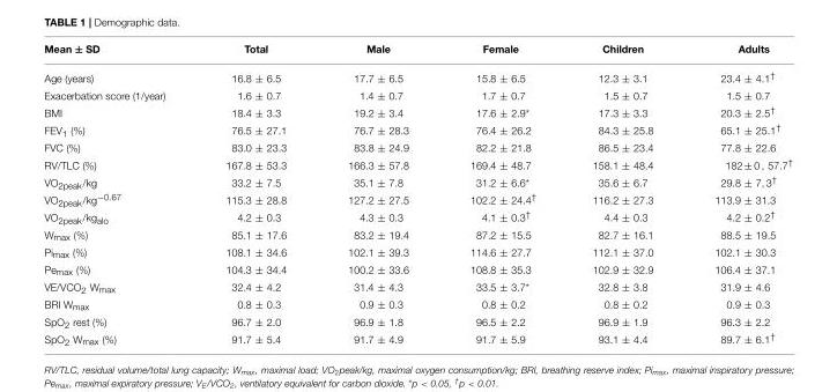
<table><thead><tr><td>Mean ± SD</td><td>Total</td><td>Male</td><td>Female</td><td>Children</td><td>Adults</td></tr></thead><tbody><tr><td>Age (years)</td><td>16.8 ± 6.5</td><td>17.7 ± 6.5</td><td>15.8 ± 6.5</td><td>12.3 ± 3.1</td><td>23.4 ± 4.1<sup>†</sup></td></tr><tr><td>Exacerbation score (1/year)</td><td>1.6 ± 0.7</td><td>1.4 ± 0.7</td><td>1.7 ± 0.7</td><td>1.5 ± 0.7</td><td>1.5 ± 0.7</td></tr><tr><td>BMI</td><td>18.4 ± 3.3</td><td>19.2 ± 3.4</td><td>17.6 ± 2.9*</td><td>17.3 ± 3.3</td><td>20.3 ± 2.5<sup>†</sup></td></tr><tr><td>FEV<sub>1</sub> (%)</td><td>76.5 ± 27.1</td><td>76.7 ± 28.3</td><td>76.4 ± 26.2</td><td>84.3 ± 25.8</td><td>65.1 ± 25.1<sup>†</sup></td></tr><tr><td>FVC (%)</td><td>83.0 ± 23.3</td><td>83.8 ± 24.9</td><td>82.2 ± 21.8</td><td>86.5 ± 23.4</td><td>77.8 ± 22.6</td></tr><tr><td>RV/TLC (%)</td><td>167.8 ± 53.3</td><td>166.3 ± 57.8</td><td>169.4 ± 48.7</td><td>158.1 ± 48.4</td><td>182 ± 0 , 57.7†</td></tr><tr><td>VO<sub>2peak</sub>/kg</td><td>33.2 ± 7.5</td><td>35.1 ± 7.8</td><td>31.2 ± 6.6*</td><td>35.6 ± 6.7</td><td>29.8 ± 7, 3<sup>†</sup></td></tr><tr><td>VO<sub>2peak</sub>/kg<sup>−0.67</sup></td><td>115.3 ± 28.8</td><td>127.2 ± 27.5</td><td>102.2 ± 24.4<sup>†</sup></td><td>116.2 ± 27.3</td><td>113.9 ± 31.3</td></tr><tr><td>VO<sub>2peak</sub>/kg<sub>alo</sub></td><td>4.2 ± 0.3</td><td>4.3 ± 0.3</td><td>4.1 ± 0.3<sup>†</sup></td><td>4.4 ± 0.3</td><td>4.2 ± 0.2<sup>†</sup></td></tr><tr><td>W<sub>max</sub> (%)</td><td>85.1 ± 17.6</td><td>83.2 ± 19.4</td><td>87.2 ± 15.5</td><td>82.7 ± 16.1</td><td>88.5 ± 19.5</td></tr><tr><td>Pi<sub>max</sub> (%)</td><td>108.1 ± 34.6</td><td>102.1 ± 39.3</td><td>114.6 ± 27.7</td><td>112.1 ± 37.0</td><td>102.1 ± 30.3</td></tr><tr><td>Pe<sub>max</sub> (%)</td><td>104.3 ± 34.4</td><td>100.2 ± 33.6</td><td>108.8 ± 35.3</td><td>102.9 ± 32.9</td><td>106.4 ± 37.1</td></tr><tr><td>VE/VCO<sub>2</sub> W<sub>max</sub></td><td>32.4 ± 4.2</td><td>31.4 ± 4.3</td><td>33.5 ± 3.7*</td><td>32.8 ± 3.8</td><td>31.9 ± 4.6</td></tr><tr><td>BRI W<sub>max</sub></td><td>0.8 ± 0.3</td><td>0.9 ± 0.3</td><td>0.8 ± 0.2</td><td>0.8 ± 0.2</td><td>0.9 ± 0.3</td></tr><tr><td>SpO<sub>2</sub> rest (%)</td><td>96.7 ± 2.0</td><td>96.9 ± 1.8</td><td>96.5 ± 2.2</td><td>96.9 ± 1.9</td><td>96.3 ± 2.2</td></tr><tr><td>SpO<sub>2</sub> W<sub>max</sub> (%)</td><td>91.7 ± 5.4</td><td>91.7 ± 4.9</td><td>91.7 ± 5.9</td><td>93.1 ± 4.4</td><td>89.7 ± 6.1<sup>†</sup></td></tr></tbody></table>